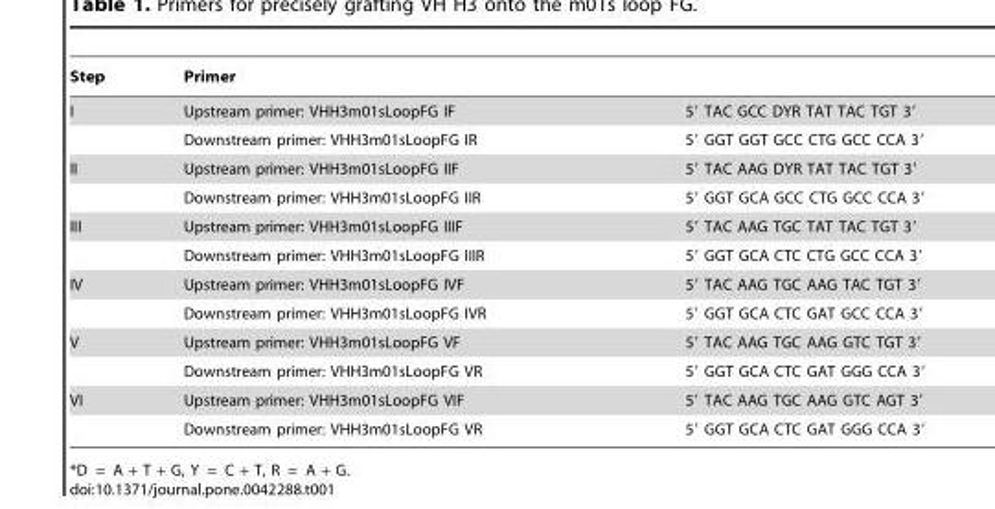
<table><thead><tr><td rowspan="2">Step I</td><td colspan="2">Primer</td></tr><tr><td>Upstream primer: VHH3m01sLoopFG IF</td><td>5′ TAC GCC DYR TAT TAC TGT 3′</td></tr></thead><tbody><tr><td></td><td>Downstream primer: VHH3m01sLoopFG IR</td><td>5′ GGT GGT GCC CTG GCC CCA 3′</td></tr><tr><td rowspan="2">II</td><td>Upstream primer: VHH3m01sLoopFG IIF</td><td>5′ TAC AAG DYR TAT TAC TGT 3′</td></tr><tr><td>Downstream primer: VHH3m01sLoopFG IIR</td><td>5′ GGT GCA GCC CTG GCC CCA 3′</td></tr><tr><td rowspan="2">III</td><td>Upstream primer: VHH3m01sLoopFG IIIF</td><td>5′ TAC AAG TGC TAT TAC TGT 3′</td></tr><tr><td>Downstream primer: VHH3m01sLoopFG IIIR</td><td>5′ GGT GCA CTC CTG GCC CCA 3′</td></tr><tr><td rowspan="2">IV</td><td>Upstream primer: VHH3m01sLoopFG IVF</td><td>5′ TAC AAG TGC AAG TAC TGT 3′</td></tr><tr><td>Downstream primer: VHH3m01sLoopFG IVR</td><td>5′ GGT GCA CTC GAT GCC CCA 3′</td></tr><tr><td rowspan="2">V</td><td>Upstream primer: VHH3m01sLoopFG VF</td><td>5′ TAC AAG TGC AAG GTC TGT 3′</td></tr><tr><td>Downstream primer: VHH3m01sLoopFG VR</td><td>5′ GGT GCA CTC GAT GGG CCA 3′</td></tr><tr><td rowspan="2">VI</td><td>Upstream primer: VHH3m01sLoopFG VIF</td><td>5′ TAC AAG TGC AAG GTC AGT 3′</td></tr><tr><td>Downstream primer: VHH3m01sLoopFG VR</td><td>5′ GGT GCA CTC GAT GGG CCA 3′</td></tr></tbody></table>